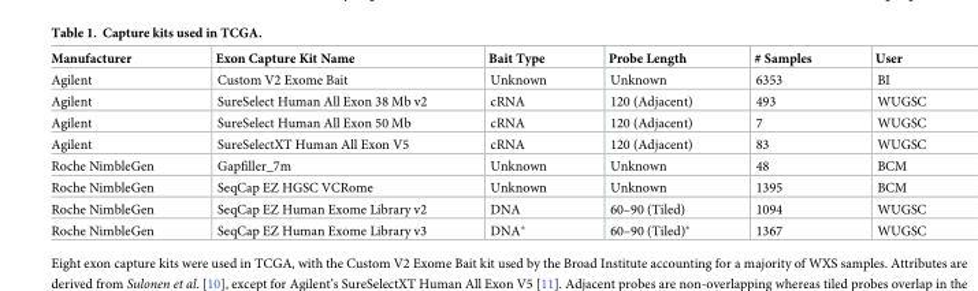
<table><thead><tr><td>Manufacturer</td><td>Exon Capture Kit Name</td><td>Bait Type</td><td>Probe Length</td><td># Samples</td><td>User</td></tr></thead><tbody><tr><td>Agilent</td><td>Custom V2 Exome Bait</td><td>Unknown</td><td>Unknown</td><td>6353</td><td>BI</td></tr><tr><td>Agilent</td><td>SureSelect Human All Exon 38 Mb v2</td><td>cRNA</td><td>120 (Adjacent)</td><td>493</td><td>WUGSC</td></tr><tr><td>Agilent</td><td>SureSelect Human All Exon 50 Mb</td><td>cRNA</td><td>120 (Adjacent)</td><td>7</td><td>WUGSC</td></tr><tr><td>Agilent</td><td>SureSelectXT Human All Exon V5</td><td>cRNA</td><td>120 (Adjacent)</td><td>83</td><td>WUGSC</td></tr><tr><td>Roche NimbleGen</td><td>Gapfiller_7m</td><td>Unknown</td><td>Unknown</td><td>48</td><td>BCM</td></tr><tr><td>Roche NimbleGen</td><td>SeqCap EZ HGSC VCRome</td><td>Unknown</td><td>Unknown</td><td>1395</td><td>BCM</td></tr><tr><td>Roche NimbleGen</td><td>SeqCap EZ Human Exome Library v2</td><td>DNA</td><td>60–90 (Tiled)</td><td>1094</td><td>WUGSC</td></tr><tr><td>Roche NimbleGen</td><td>SeqCap EZ Human Exome Library v3</td><td>DNA*</td><td>60–90 (Tiled)*</td><td>1367</td><td>WUGSC</td></tr></tbody></table>